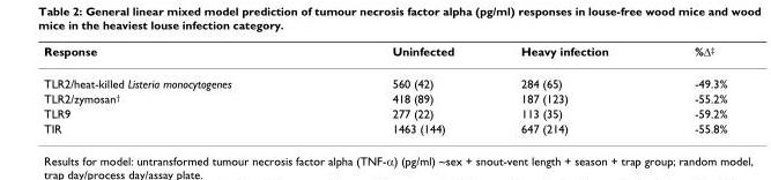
<table><thead><tr><td>Response</td><td>Uninfected</td><td>Heavy infection</td><td>%Δ<sup>‡</sup></td></tr></thead><tbody><tr><td>TLR2/heat-killed Listeria monocytogenes</td><td>560 (42)</td><td>284 (65)</td><td>-49.3%</td></tr><tr><td>TLR2/zymosan<sup>†</sup></td><td>418 (89)</td><td>187 (123)</td><td>-55.2%</td></tr><tr><td>TLR9</td><td>277 (22)</td><td>113 (35)</td><td>-59.2%</td></tr><tr><td>TIR</td><td>1463 (144)</td><td>647 (214)</td><td>-55.8%</td></tr></tbody></table>